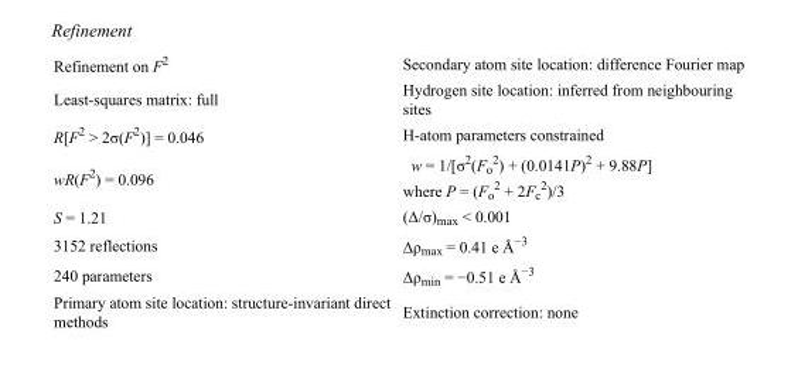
<table><tbody><tr><td>Refinement on F<sup>2</sup></td><td>Secondary atom site location: difference Fourier map</td></tr><tr><td>Least-squares matrix: full</td><td>Hydrogen site location: inferred from neighbouring sites</td></tr><tr><td>R[F<sup>2</sup> &gt; 2σ(F<sup>2</sup>)] = 0.046</td><td>H-atom parameters constrained</td></tr><tr><td>wR(F<sup>2</sup>) = 0.096</td><td>w = 1/[σ<sup>2</sup>(F<sub>o</sub> <sup>2</sup>) + (0.0141P)<sup>2</sup> + 9.88P] where P = (F<sub>o</sub> <sup>2</sup> + 2F<sub>c</sub> <sup>2</sup>)/3</td></tr><tr><td>S = 1.21</td><td>(Δ/σ)<sub>max</sub> &lt; 0.001</td></tr><tr><td>3152 reflections</td><td>Δρ<sub>max</sub> = 0.41 e Å<sup>−3</sup></td></tr><tr><td>240 parameters</td><td>Δρ<sub>min</sub> = −0.51 e Å<sup>−3</sup></td></tr><tr><td>Primary atom site location: structure-invariant direct methods</td><td>Extinction correction: none</td></tr></tbody></table>